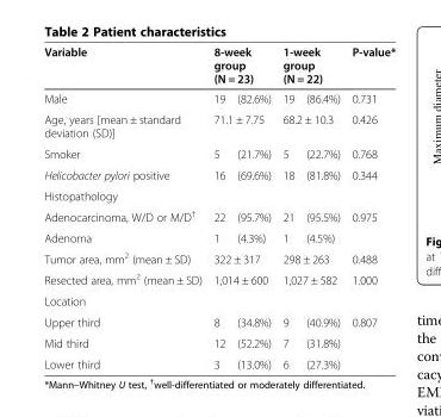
<table><thead><tr><td rowspan="2">Variable Male</td><td colspan="2">8-week group (N = 23)</td><td colspan="2">1-week group (N = 22)</td><td rowspan="2">P-value* 0.731</td></tr><tr><td>19</td><td>(82.6%)</td><td>19</td><td>(86.4%)</td></tr></thead><tbody><tr><td>Age, years [mean ± standard deviation (SD)]</td><td colspan="2">71.1 ± 7.75</td><td colspan="2">68.2 ± 10.3</td><td>0.426</td></tr><tr><td>Smoker</td><td>5</td><td>(21.7%)</td><td>5</td><td>(22.7%)</td><td>0.768</td></tr><tr><td>Helicobacter pylori positive</td><td>16</td><td>(69.6%)</td><td>18</td><td>(81.8%)</td><td>0.344</td></tr><tr><td colspan="6">Histopathology</td></tr><tr><td>Adenocarcinoma, W/D or M/D<sup>†</sup></td><td>22</td><td>(95.7%)</td><td>21</td><td>(95.5%)</td><td>0.975</td></tr><tr><td>Adenoma</td><td>1</td><td>(4.3%)</td><td>1</td><td>(4.5%)</td><td></td></tr><tr><td>Tumor area, mm<sup>2</sup> (mean ± SD)</td><td colspan="2">322 ± 317</td><td colspan="2">298 ± 263</td><td>0.488</td></tr><tr><td>Resected area, mm<sup>2</sup> (mean ± SD)</td><td colspan="2">1,014 ± 600</td><td colspan="2">1,027 ± 582</td><td>1.000</td></tr><tr><td colspan="6">Location</td></tr><tr><td>Upper third</td><td>8</td><td>(34.8%)</td><td>9</td><td>(40.9%)</td><td>0.807</td></tr><tr><td>Mid third</td><td>12</td><td>(52.2%)</td><td>7</td><td>(31.8%)</td><td></td></tr><tr><td>Lower third</td><td>3</td><td>(13.0%)</td><td>6</td><td>(27.3%)</td><td></td></tr></tbody></table>